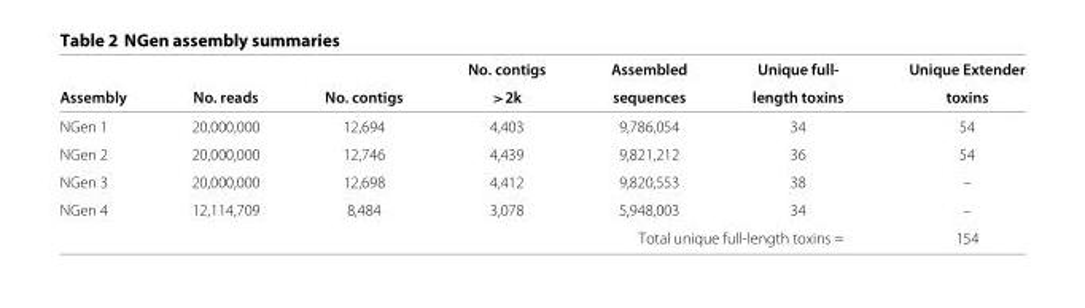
<table><thead><tr><td rowspan="2">Assembly</td><td rowspan="2">No. reads</td><td rowspan="2">No. contigs</td><td rowspan="2">No. contigs &gt;2k</td><td rowspan="2">Assembled sequences</td><td rowspan="2">Unique full- length toxins</td><td rowspan="2">Unique Extender toxins</td></tr><tr></tr></thead><tbody><tr><td>NGen 1</td><td>20,000,000</td><td>12,694</td><td>4,403</td><td>9,786,054</td><td>34</td><td>54</td></tr><tr><td>NGen 2</td><td>20,000,000</td><td>12,746</td><td>4,439</td><td>9,821,212</td><td>36</td><td>54</td></tr><tr><td>NGen 3</td><td>20,000,000</td><td>12,698</td><td>4,412</td><td>9,820,553</td><td>38</td><td>–</td></tr><tr><td>NGen 4</td><td>12,114,709</td><td>8,484</td><td>3,078</td><td>5,948,003</td><td>34</td><td>–</td></tr><tr><td colspan="6">Total unique full-length toxins =</td><td>154</td></tr></tbody></table>